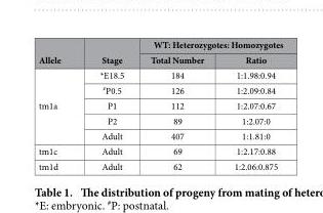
<table><thead><tr><td rowspan="2">Allele</td><td rowspan="2">Stage</td><td colspan="2">WT: Heterozygotes: Homozygotes</td></tr><tr><td>Total Number</td><td>Ratio</td></tr></thead><tbody><tr><td rowspan="5">tm1a</td><td>*E18.5</td><td>184</td><td>1:1.98:0.94</td></tr><tr><td>#P0.5</td><td>126</td><td>1:2.09:0.84</td></tr><tr><td>P1</td><td>112</td><td>1:2.07:0.67</td></tr><tr><td>P2</td><td>89</td><td>1:2.07:0</td></tr><tr><td>Adult</td><td>407</td><td>1:1.81:0</td></tr><tr><td>tm1c</td><td>Adult</td><td>69</td><td>1:2.17:0.88</td></tr><tr><td>tm1d</td><td>Adult</td><td>62</td><td>1:2.06:0.875</td></tr></tbody></table>